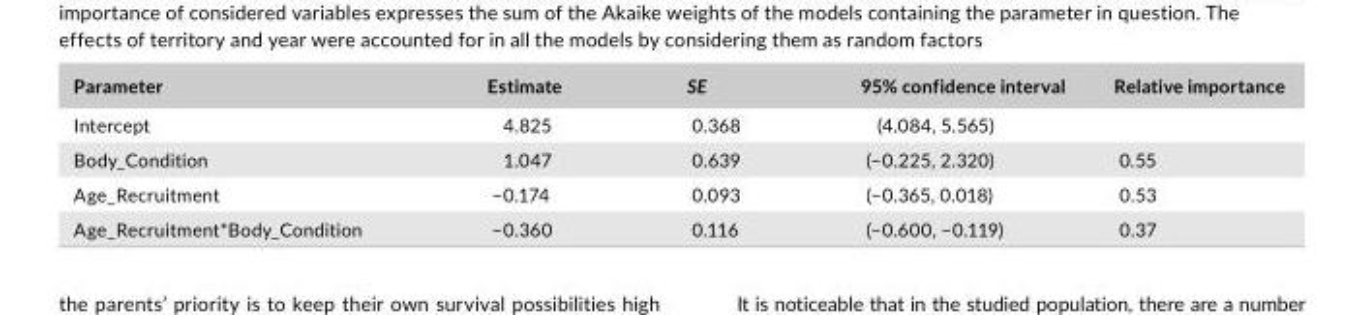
<table><thead><tr><td>Parameter</td><td>Estimate</td><td>SE</td><td>95% confidence interval</td><td>Relative importance</td></tr></thead><tbody><tr><td>Intercept</td><td>4.825</td><td>0.368</td><td>(4.084, 5.565)</td><td></td></tr><tr><td>Body_Condition</td><td>1.047</td><td>0.639</td><td>(−0.225, 2.320)</td><td>0.55</td></tr><tr><td>Age_Recruitment</td><td>−0.174</td><td>0.093</td><td>(−0.365, 0.018)</td><td>0.53</td></tr><tr><td>Age_Recruitment*Body_Condition</td><td>−0.360</td><td>0.116</td><td>(−0.600, −0.119)</td><td>0.37</td></tr></tbody></table>